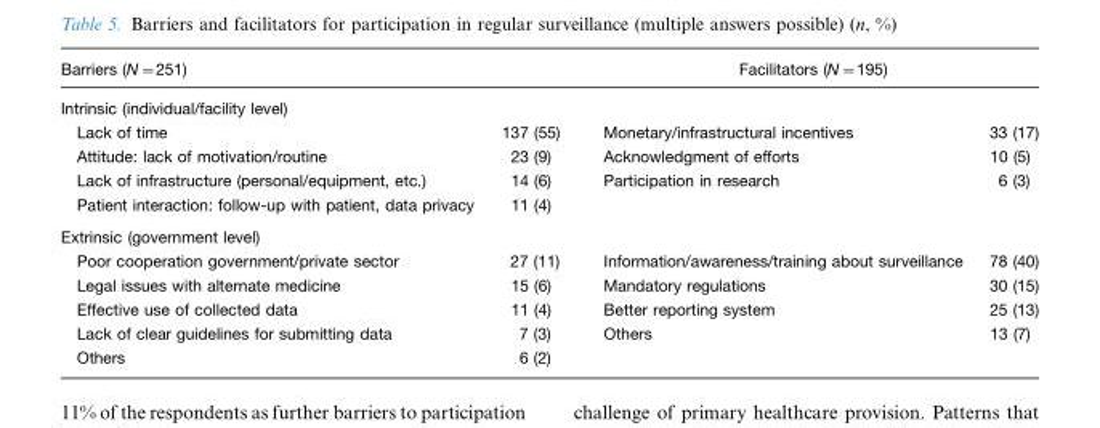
<table><thead><tr><td>Barriers (N=251)</td><td></td><td>Facilitators (N=195)</td><td></td></tr></thead><tbody><tr><td colspan="4">Intrinsic (individual/facility level)</td></tr><tr><td>Lack of time</td><td>137 (55)</td><td>Monetary/infrastructural incentives</td><td>33 (17)</td></tr><tr><td>Attitude: lack of motivation/routine</td><td>23 (9)</td><td>Acknowledgment of efforts</td><td>10 (5)</td></tr><tr><td>Lack of infrastructure (personal/equipment, etc.)</td><td>14 (6)</td><td>Participation in research</td><td>6 (3)</td></tr><tr><td>Patient interaction: follow-up with patient, data privacy</td><td>11 (4)</td><td></td><td></td></tr><tr><td colspan="4">Extrinsic (government level)</td></tr><tr><td>Poor cooperation government/private sector</td><td>27 (11)</td><td>Information/awareness/training about surveillance</td><td>78 (40)</td></tr><tr><td>Legal issues with alternate medicine</td><td>15 (6)</td><td>Mandatory regulations</td><td>30 (15)</td></tr><tr><td>Effective use of collected data</td><td>11 (4)</td><td>Better reporting system</td><td>25 (13)</td></tr><tr><td>Lack of clear guidelines for submitting data</td><td>7 (3)</td><td>Others</td><td>13 (7)</td></tr><tr><td>Others</td><td>6 (2)</td><td></td><td></td></tr></tbody></table>